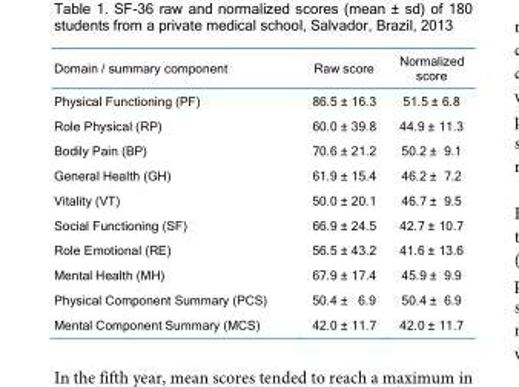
<table><thead><tr><td>Domain / summary component</td><td>Raw score</td><td>Normalized score</td></tr></thead><tbody><tr><td>Physical Functioning (PF)</td><td>86.5 ± 16.3</td><td>51.5 ± 6.8</td></tr><tr><td>Role Physical (RP)</td><td>60.0 ± 39.8</td><td>44.9 ± 11.3</td></tr><tr><td>Bodily Pain (BP)</td><td>70.6 ± 21.2</td><td>50.2 ± 9.1</td></tr><tr><td>General Health (GH)</td><td>61.9 ± 15.4</td><td>46.2 ± 7.2</td></tr><tr><td>Vitality (VT)</td><td>50.0 ± 20.1</td><td>46.7 ± 9.5</td></tr><tr><td>Social Functioning (SF)</td><td>66.9 ± 24.5</td><td>42.7 ± 10.7</td></tr><tr><td>Role Emotional (RE)</td><td>56.5 ± 43.2</td><td>41.6 ± 13.6</td></tr><tr><td>Mental Health (MH)</td><td>67.9 ± 17.4</td><td>45.9 ± 9.9</td></tr><tr><td>Physical Component Summary (PCS)</td><td>50.4 ± 6.9</td><td>50.4 ± 6.9</td></tr><tr><td>Mental Component Summary (MCS)</td><td>42.0 ± 11.7</td><td>42.0 ± 11.7</td></tr></tbody></table>